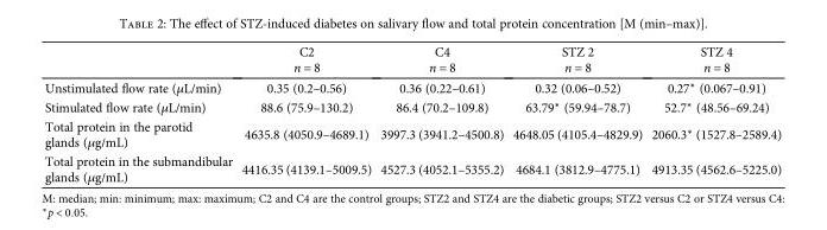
<table><thead><tr><td></td><td>C2 n = 8</td><td>C4 n = 8</td><td>STZ 2 n = 8</td><td>STZ 4 n = 8</td></tr></thead><tbody><tr><td>Unstimulated flow rate (μL/min)</td><td>0.35 (0.2–0.56)</td><td>0.36 (0.22–0.61)</td><td>0.32 (0.06–0.52)</td><td>0.27∗ (0.067–0.91)</td></tr><tr><td>Stimulated flow rate (μL/min)</td><td>88.6 (75.9–130.2)</td><td>86.4 (70.2–109.8)</td><td>63.79∗ (59.94–78.7)</td><td>52.7∗ (48.56–69.24)</td></tr><tr><td>Total protein in the parotid glands (μg/mL)</td><td>4635.8 (4050.9–4689.1)</td><td>3997.3 (3941.2–4500.8)</td><td>4648.05 (4105.4–4829.9)</td><td>2060.3∗ (1527.8–2589.4)</td></tr><tr><td>Total protein in the submandibular glands (μg/mL)</td><td>4416.35 (4139.1–5009.5)</td><td>4527.3 (4052.1–5355.2)</td><td>4684.1 (3812.9–4775.1)</td><td>4913.35 (4562.6–5225.0)</td></tr></tbody></table>